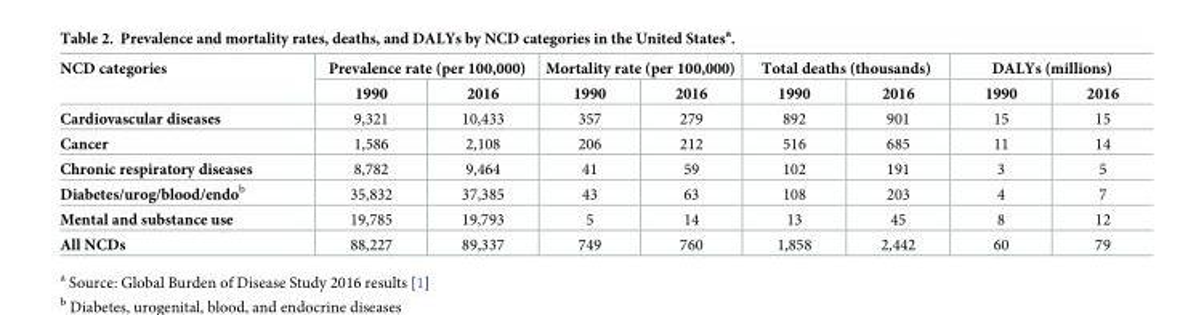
<table><thead><tr><td rowspan="2">NCD categories</td><td colspan="2">Prevalence rate (per 100,000)</td><td colspan="2">Mortality rate (per 100,000)</td><td colspan="2">Total deaths (thousands)</td><td colspan="2">DALYs (millions)</td></tr><tr><td>1990</td><td>2016</td><td>1990</td><td>2016</td><td>1990</td><td>2016</td><td>1990</td><td>2016</td></tr></thead><tbody><tr><td>Cardiovascular diseases</td><td>9,321</td><td>10,433</td><td>357</td><td>279</td><td>892</td><td>901</td><td>15</td><td>15</td></tr><tr><td>Cancer</td><td>1,586</td><td>2,108</td><td>206</td><td>212</td><td>516</td><td>685</td><td>11</td><td>14</td></tr><tr><td>Chronic respiratory diseases</td><td>8,782</td><td>9,464</td><td>41</td><td>59</td><td>102</td><td>191</td><td>3</td><td>5</td></tr><tr><td>Diabetes/urog/blood/endo<sup>b</sup></td><td>35,832</td><td>37,385</td><td>43</td><td>63</td><td>108</td><td>203</td><td>4</td><td>7</td></tr><tr><td>Mental and substance use</td><td>19,785</td><td>19,793</td><td>5</td><td>14</td><td>13</td><td>45</td><td>8</td><td>12</td></tr><tr><td>All NCDs</td><td>88,227</td><td>89,337</td><td>749</td><td>760</td><td>1,858</td><td>2,442</td><td>60</td><td>79</td></tr></tbody></table>